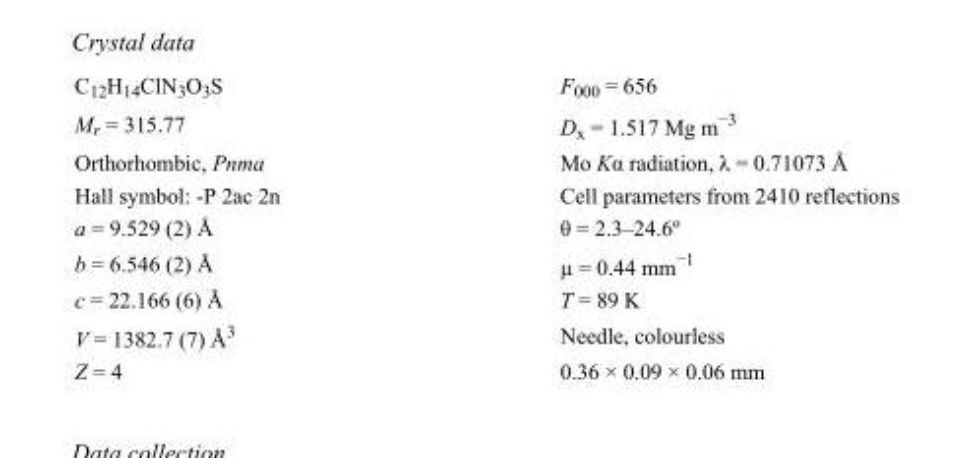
<table><tbody><tr><td>C<sub>12</sub>H<sub>14</sub>ClN<sub>3</sub>O<sub>3</sub>S</td><td>F000 = 656</td></tr><tr><td>M<sub>r</sub> = 315.77</td><td>D<sub>x</sub> = 1.517 Mg m<sup>−3</sup></td></tr><tr><td>Orthorhombic, Pnma</td><td>Mo Kα radiation, λ = 0.71073 Å</td></tr><tr><td>Hall symbol: -P 2ac 2n</td><td>Cell parameters from 2410 reflections</td></tr><tr><td>a = 9.529 (2) Å</td><td>θ = 2.3–24.6º</td></tr><tr><td>b = 6.546 (2) Å</td><td>µ = 0.44 mm<sup>−1</sup></td></tr><tr><td>c = 22.166 (6) Å</td><td>T = 89 K</td></tr><tr><td>V = 1382.7 (7) Å<sup>3</sup></td><td>Needle, colourless</td></tr><tr><td>Z = 4</td><td>0.36 × 0.09 × 0.06 mm</td></tr></tbody></table>